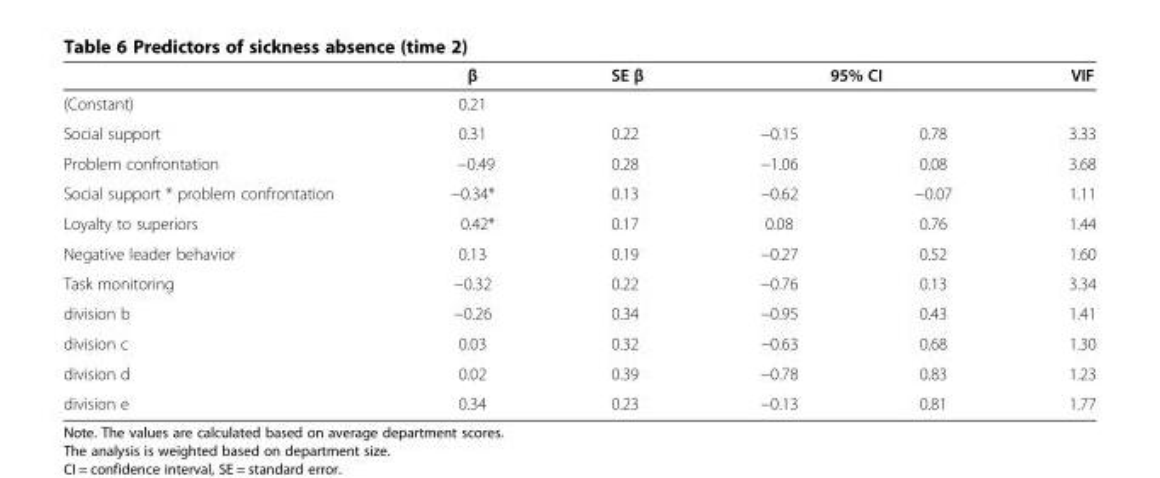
<table><thead><tr><td rowspan="2">(Constant)</td><td rowspan="2">β 0.21</td><td rowspan="2">SE β</td><td colspan="2">95% CI</td><td rowspan="2">VIF</td></tr><tr><td></td><td></td></tr></thead><tbody><tr><td>Social support</td><td>0.31</td><td>0.22</td><td>−0.15</td><td>0.78</td><td>3.33</td></tr><tr><td>Problem confrontation</td><td>−0.49</td><td>0.28</td><td>−1.06</td><td>0.08</td><td>3.68</td></tr><tr><td>Social support * problem confrontation</td><td>−0.34*</td><td>0.13</td><td>−0.62</td><td>−0.07</td><td>1.11</td></tr><tr><td>Loyalty to superiors</td><td>0.42*</td><td>0.17</td><td>0.08</td><td>0.76</td><td>1.44</td></tr><tr><td>Negative leader behavior</td><td>0.13</td><td>0.19</td><td>−0.27</td><td>0.52</td><td>1.60</td></tr><tr><td>Task monitoring</td><td>−0.32</td><td>0.22</td><td>−0.76</td><td>0.13</td><td>3.34</td></tr><tr><td>division b</td><td>−0.26</td><td>0.34</td><td>−0.95</td><td>0.43</td><td>1.41</td></tr><tr><td>division c</td><td>0.03</td><td>0.32</td><td>−0.63</td><td>0.68</td><td>1.30</td></tr><tr><td>division d</td><td>0.02</td><td>0.39</td><td>−0.78</td><td>0.83</td><td>1.23</td></tr><tr><td>division e</td><td>0.34</td><td>0.23</td><td>−0.13</td><td>0.81</td><td>1.77</td></tr></tbody></table>